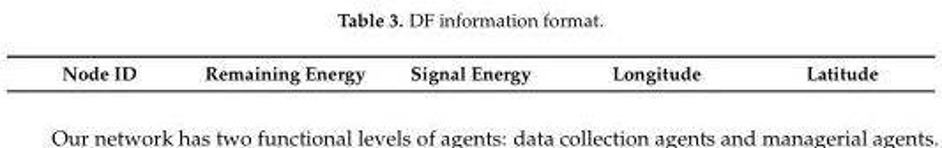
<table><tbody><tr><td>Node ID</td><td>Remaining Energy</td><td>Signal Energy</td><td>Longitude</td><td>Latitude</td></tr></tbody></table>